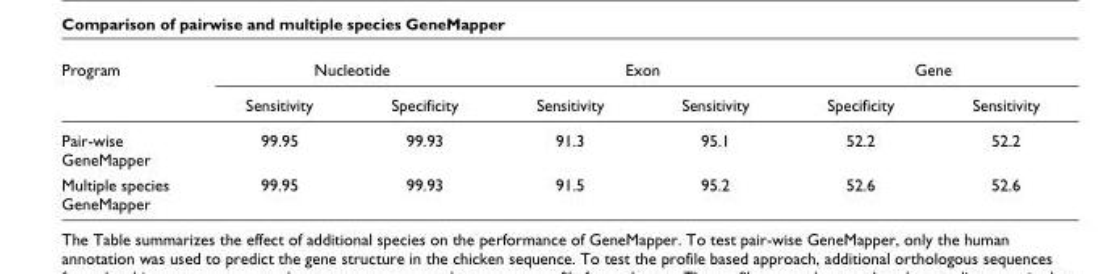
<table><thead><tr><td rowspan="2">Program</td><td colspan="2">Nucleotide</td><td colspan="2">Exon</td><td colspan="2">Gene</td></tr><tr><td>Sensitivity</td><td>Specificity</td><td>Sensitivity</td><td>Sensitivity</td><td>Specificity</td><td>Sensitivity</td></tr></thead><tbody><tr><td>Pair-wise GeneMapper</td><td>99.95</td><td>99.93</td><td>91.3</td><td>95.1</td><td>52.2</td><td>52.2</td></tr><tr><td>Multiple species GeneMapper</td><td>99.95</td><td>99.93</td><td>91.5</td><td>95.2</td><td>52.6</td><td>52.6</td></tr></tbody></table>